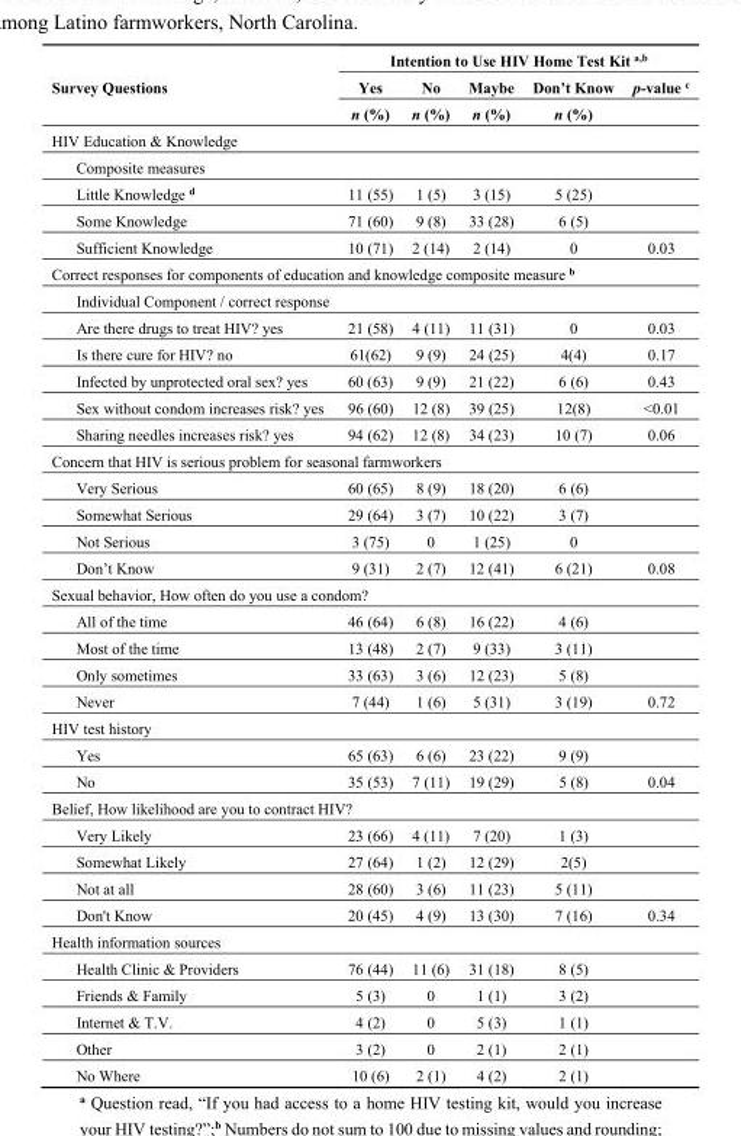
<table><thead><tr><td rowspan="3">Survey Questions</td><td colspan="5">Intention to Use HIV Home Test Kit <sup>a,b</sup></td></tr><tr><td rowspan="2">Yes n (%)</td><td rowspan="2">No n (%)</td><td rowspan="2">Maybe n (%)</td><td rowspan="2">Don’t Know n (%)</td><td rowspan="2">p-value <sup>c</sup></td></tr><tr></tr></thead><tbody><tr><td colspan="6">HIV Education &amp; Knowledge</td></tr><tr><td colspan="6">Composite measures</td></tr><tr><td>Little Knowledge <sup>d</sup></td><td>11 (55)</td><td>1 (5)</td><td>3 (15)</td><td>5 (25)</td><td></td></tr><tr><td>Some Knowledge</td><td>71 (60)</td><td>9 (8)</td><td>33 (28)</td><td>6 (5)</td><td></td></tr><tr><td>Sufficient Knowledge</td><td>10 (71)</td><td>2 (14)</td><td>2 (14)</td><td>0</td><td>0.03</td></tr><tr><td colspan="6">Correct responses for components of education and knowledge composite measure <sup>b</sup></td></tr><tr><td colspan="6">Individual Component / correct response</td></tr><tr><td>Are there drugs to treat HIV? yes</td><td>21 (58)</td><td>4 (11)</td><td>11 (31)</td><td>0</td><td>0.03</td></tr><tr><td>Is there cure for HIV? no</td><td>61(62)</td><td>9 (9)</td><td>24 (25)</td><td>4(4)</td><td>0.17</td></tr><tr><td>Infected by unprotected oral sex? yes</td><td>60 (63)</td><td>9 (9)</td><td>21 (22)</td><td>6 (6)</td><td>0.43</td></tr><tr><td>Sex without condom increases risk? yes</td><td>96 (60)</td><td>12 (8)</td><td>39 (25)</td><td>12(8)</td><td>&lt;0.01</td></tr><tr><td>Sharing needles increases risk? yes</td><td>94 (62)</td><td>12 (8)</td><td>34 (23)</td><td>10 (7)</td><td>0.06</td></tr><tr><td colspan="6">Concern that HIV is serious problem for seasonal farmworkers</td></tr><tr><td>Very Serious</td><td>60 (65)</td><td>8 (9)</td><td>18 (20)</td><td>6 (6)</td><td></td></tr><tr><td>Somewhat Serious</td><td>29 (64)</td><td>3 (7)</td><td>10 (22)</td><td>3 (7)</td><td></td></tr><tr><td>Not Serious</td><td>3 (75)</td><td>0</td><td>1 (25)</td><td>0</td><td></td></tr><tr><td>Don’t Know</td><td>9 (31)</td><td>2 (7)</td><td>12 (41)</td><td>6 (21)</td><td>0.08</td></tr><tr><td colspan="6">Sexual behavior, How often do you use a condom?</td></tr><tr><td>All of the time</td><td>46 (64)</td><td>6 (8)</td><td>16 (22)</td><td>4 (6)</td><td></td></tr><tr><td>Most of the time</td><td>13 (48)</td><td>2 (7)</td><td>9 (33)</td><td>3 (11)</td><td></td></tr><tr><td>Only sometimes</td><td>33 (63)</td><td>3 (6)</td><td>12 (23)</td><td>5 (8)</td><td></td></tr><tr><td>Never</td><td>7 (44)</td><td>1 (6)</td><td>5 (31)</td><td>3 (19)</td><td>0.72</td></tr><tr><td colspan="6">HIV test history</td></tr><tr><td>Yes</td><td>65 (63)</td><td>6 (6)</td><td>23 (22)</td><td>9 (9)</td><td></td></tr><tr><td>No</td><td>35 (53)</td><td>7 (11)</td><td>19 (29)</td><td>5 (8)</td><td>0.04</td></tr><tr><td colspan="6">Belief, How likelihood are you to contract HIV?</td></tr><tr><td>Very Likely</td><td>23 (66)</td><td>4 (11)</td><td>7 (20)</td><td>1 (3)</td><td></td></tr><tr><td>Somewhat Likely</td><td>27 (64)</td><td>1 (2)</td><td>12 (29)</td><td>2(5)</td><td></td></tr><tr><td>Not at all</td><td>28 (60)</td><td>3 (6)</td><td>11 (23)</td><td>5 (11)</td><td></td></tr><tr><td>Don&#x27;t Know</td><td>20 (45)</td><td>4 (9)</td><td>13 (30)</td><td>7 (16)</td><td>0.34</td></tr><tr><td colspan="6">Health information sources</td></tr><tr><td>Health Clinic &amp; Providers</td><td>76 (44)</td><td>11 (6)</td><td>31 (18)</td><td>8 (5)</td><td></td></tr><tr><td>Friends &amp; Family</td><td>5 (3)</td><td>0</td><td>1 (1)</td><td>3 (2)</td><td></td></tr><tr><td>Internet &amp; T.V.</td><td>4 (2)</td><td>0</td><td>5 (3)</td><td>1 (1)</td><td></td></tr><tr><td>Other</td><td>3 (2)</td><td>0</td><td>2 (1)</td><td>2 (1)</td><td></td></tr><tr><td>No Where</td><td>10 (6)</td><td>2 (1)</td><td>4 (2)</td><td>2 (1)</td><td></td></tr></tbody></table>